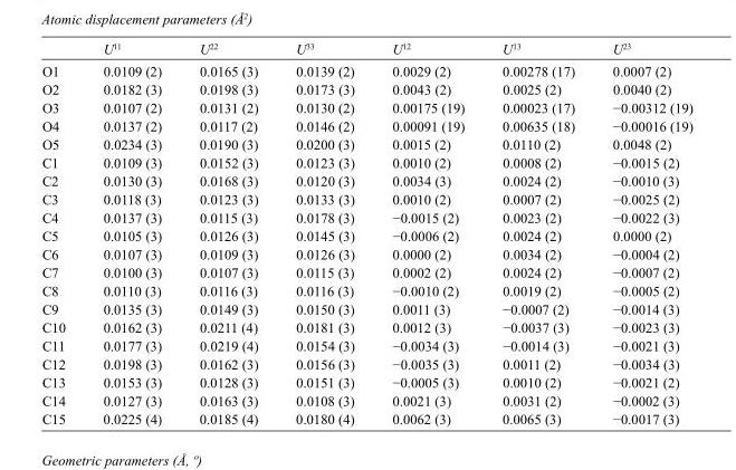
<table><thead><tr><td></td><td>U<sup>11</sup></td><td>U<sup>22</sup></td><td>U<sup>33</sup></td><td>U<sup>12</sup></td><td>U<sup>13</sup></td><td>U<sup>23</sup></td></tr></thead><tbody><tr><td>O1</td><td>0.0109 (2)</td><td>0.0165 (3)</td><td>0.0139 (2)</td><td>0.0029 (2)</td><td>0.00278 (17)</td><td>0.0007 (2)</td></tr><tr><td>O2</td><td>0.0182 (3)</td><td>0.0198 (3)</td><td>0.0173 (3)</td><td>0.0043 (2)</td><td>0.0025 (2)</td><td>0.0040 (2)</td></tr><tr><td>O3</td><td>0.0107 (2)</td><td>0.0131 (2)</td><td>0.0130 (2)</td><td>0.00175 (19)</td><td>0.00023 (17)</td><td>−0.00312 (19)</td></tr><tr><td>O4</td><td>0.0137 (2)</td><td>0.0117 (2)</td><td>0.0146 (2)</td><td>0.00091 (19)</td><td>0.00635 (18)</td><td>−0.00016 (19)</td></tr><tr><td>O5</td><td>0.0234 (3)</td><td>0.0190 (3)</td><td>0.0200 (3)</td><td>0.0015 (2)</td><td>0.0110 (2)</td><td>0.0048 (2)</td></tr><tr><td>C1</td><td>0.0109 (3)</td><td>0.0152 (3)</td><td>0.0123 (3)</td><td>0.0010 (2)</td><td>0.0008 (2)</td><td>−0.0015 (2)</td></tr><tr><td>C2</td><td>0.0130 (3)</td><td>0.0168 (3)</td><td>0.0120 (3)</td><td>0.0034 (3)</td><td>0.0024 (2)</td><td>−0.0010 (3)</td></tr><tr><td>C3</td><td>0.0118 (3)</td><td>0.0123 (3)</td><td>0.0133 (3)</td><td>0.0010 (2)</td><td>0.0007 (2)</td><td>−0.0025 (2)</td></tr><tr><td>C4</td><td>0.0137 (3)</td><td>0.0115 (3)</td><td>0.0178 (3)</td><td>−0.0015 (2)</td><td>0.0023 (2)</td><td>−0.0022 (3)</td></tr><tr><td>C5</td><td>0.0105 (3)</td><td>0.0126 (3)</td><td>0.0145 (3)</td><td>−0.0006 (2)</td><td>0.0024 (2)</td><td>0.0000 (2)</td></tr><tr><td>C6</td><td>0.0107 (3)</td><td>0.0109 (3)</td><td>0.0126 (3)</td><td>0.0000 (2)</td><td>0.0034 (2)</td><td>−0.0004 (2)</td></tr><tr><td>C7</td><td>0.0100 (3)</td><td>0.0107 (3)</td><td>0.0115 (3)</td><td>0.0002 (2)</td><td>0.0024 (2)</td><td>−0.0007 (2)</td></tr><tr><td>C8</td><td>0.0110 (3)</td><td>0.0116 (3)</td><td>0.0116 (3)</td><td>−0.0010 (2)</td><td>0.0019 (2)</td><td>−0.0005 (2)</td></tr><tr><td>C9</td><td>0.0135 (3)</td><td>0.0149 (3)</td><td>0.0150 (3)</td><td>0.0011 (3)</td><td>−0.0007 (2)</td><td>−0.0014 (3)</td></tr><tr><td>C10</td><td>0.0162 (3)</td><td>0.0211 (4)</td><td>0.0181 (3)</td><td>0.0012 (3)</td><td>−0.0037 (3)</td><td>−0.0023 (3)</td></tr><tr><td>C11</td><td>0.0177 (3)</td><td>0.0219 (4)</td><td>0.0154 (3)</td><td>−0.0034 (3)</td><td>−0.0014 (3)</td><td>−0.0021 (3)</td></tr><tr><td>C12</td><td>0.0198 (3)</td><td>0.0162 (3)</td><td>0.0156 (3)</td><td>−0.0035 (3)</td><td>0.0011 (2)</td><td>−0.0034 (3)</td></tr><tr><td>C13</td><td>0.0153 (3)</td><td>0.0128 (3)</td><td>0.0151 (3)</td><td>−0.0005 (3)</td><td>0.0010 (2)</td><td>−0.0021 (2)</td></tr><tr><td>C14</td><td>0.0127 (3)</td><td>0.0163 (3)</td><td>0.0108 (3)</td><td>0.0021 (3)</td><td>0.0031 (2)</td><td>−0.0002 (3)</td></tr><tr><td>C15</td><td>0.0225 (4)</td><td>0.0185 (4)</td><td>0.0180 (4)</td><td>0.0062 (3)</td><td>0.0065 (3)</td><td>−0.0017 (3)</td></tr></tbody></table>